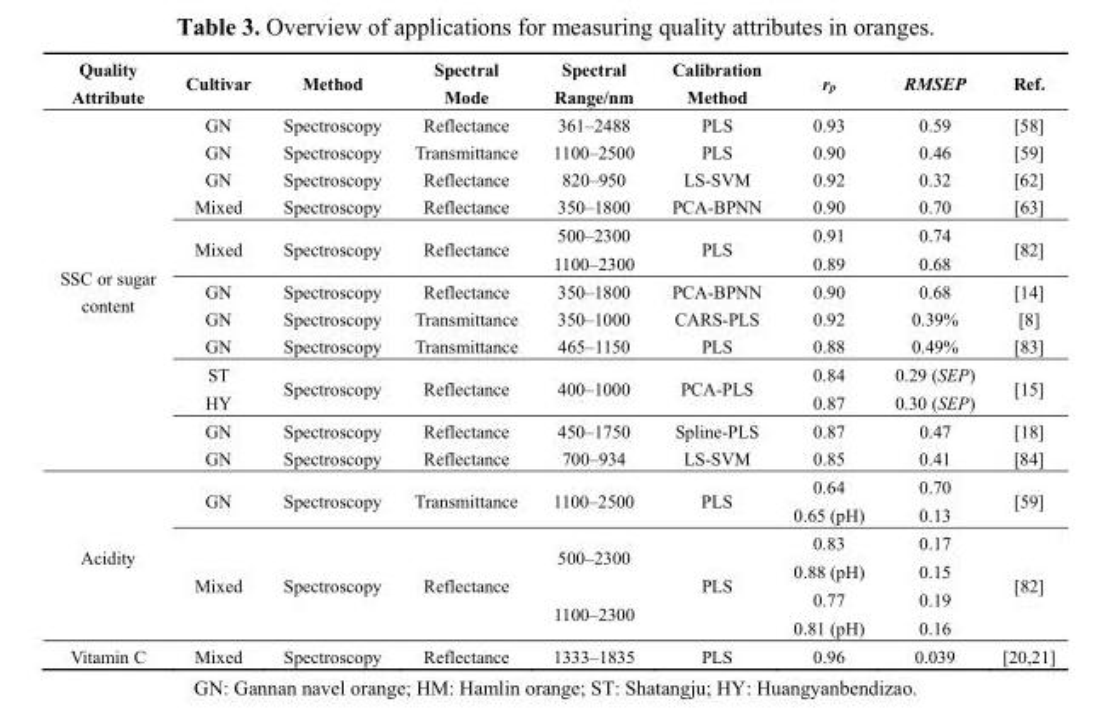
<table><thead><tr><td>Quality Attribute</td><td>Cultivar</td><td>Method</td><td>Spectral Mode</td><td>Spectral Range/nm</td><td>Calibration Method</td><td>r<sub>p</sub></td><td>RMSEP</td><td>Ref.</td></tr></thead><tbody><tr><td rowspan="13">SSC or sugar content</td><td>GN</td><td>Spectroscopy</td><td>Reflectance</td><td>361–2488</td><td>PLS</td><td>0.93</td><td>0.59</td><td>[58]</td></tr><tr><td>GN</td><td>Spectroscopy</td><td>Transmittance</td><td>1100–2500</td><td>PLS</td><td>0.90</td><td>0.46</td><td>[59]</td></tr><tr><td>GN</td><td>Spectroscopy</td><td>Reflectance</td><td>820–950</td><td>LS-SVM</td><td>0.92</td><td>0.32</td><td>[62]</td></tr><tr><td>Mixed</td><td>Spectroscopy</td><td>Reflectance</td><td>350–1800</td><td>PCA-BPNN</td><td>0.90</td><td>0.70</td><td>[63]</td></tr><tr><td rowspan="2">Mixed</td><td rowspan="2">Spectroscopy</td><td rowspan="2">Reflectance</td><td>500–2300</td><td rowspan="2">PLS</td><td>0.91</td><td>0.74</td><td rowspan="2">[82]</td></tr><tr><td>1100–2300</td><td>0.89</td><td>0.68</td></tr><tr><td>GN</td><td>Spectroscopy</td><td>Reflectance</td><td>350–1800</td><td>PCA-BPNN</td><td>0.90</td><td>0.68</td><td>[14]</td></tr><tr><td>GN</td><td>Spectroscopy</td><td>Transmittance</td><td>350–1000</td><td>CARS-PLS</td><td>0.92</td><td>0.39%</td><td>[8]</td></tr><tr><td>GN</td><td>Spectroscopy</td><td>Transmittance</td><td>465–1150</td><td>PLS</td><td>0.88</td><td>0.49%</td><td>[83]</td></tr><tr><td>ST</td><td rowspan="2">Spectroscopy</td><td rowspan="2">Reflectance</td><td rowspan="2">400–1000</td><td rowspan="2">PCA-PLS</td><td>0.84</td><td>0.29 (SEP)</td><td rowspan="2">[15]</td></tr><tr><td>HY</td><td>0.87</td><td>0.30 (SEP)</td></tr><tr><td>GN</td><td>Spectroscopy</td><td>Reflectance</td><td>450–1750</td><td>Spline-PLS</td><td>0.87</td><td>0.47</td><td>[18]</td></tr><tr><td>GN</td><td>Spectroscopy</td><td>Reflectance</td><td>700–934</td><td>LS-SVM</td><td>0.85</td><td>0.41</td><td>[84]</td></tr><tr><td rowspan="6">Acidity</td><td rowspan="2">GN</td><td rowspan="2">Spectroscopy</td><td rowspan="2">Transmittance</td><td rowspan="2">1100–2500</td><td rowspan="2">PLS</td><td>0.64</td><td>0.70</td><td rowspan="2">[59]</td></tr><tr><td>0.65 (pH)</td><td>0.13</td></tr><tr><td rowspan="4">Mixed</td><td rowspan="4">Spectroscopy</td><td rowspan="4">Reflectance</td><td rowspan="2">500–2300</td><td rowspan="4">PLS</td><td>0.83</td><td>0.17</td><td rowspan="4">[82]</td></tr><tr><td>0.88 (pH)</td><td>0.15</td></tr><tr><td rowspan="2">1100–2300</td><td>0.77</td><td>0.19</td></tr><tr><td>0.81 (pH)</td><td>0.16</td></tr><tr><td>Vitamin C</td><td>Mixed</td><td>Spectroscopy</td><td>Reflectance</td><td>1333–1835</td><td>PLS</td><td>0.96</td><td>0.039</td><td>[20,21]</td></tr></tbody></table>